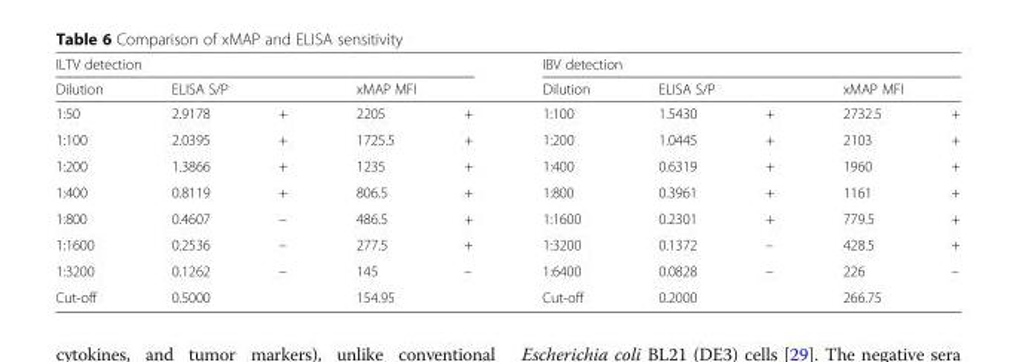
<table><thead><tr><td colspan="5">ILTV detection</td><td colspan="5">IBV detection</td></tr><tr><td rowspan="2">Dilution 1:50</td><td colspan="2">ELISA S/P</td><td colspan="2">xMAP MFI</td><td rowspan="2">Dilution 1:100</td><td colspan="2">ELISA S/P</td><td colspan="2">xMAP MFI</td></tr><tr><td>2.9178</td><td>+</td><td>2205</td><td>+</td><td>1.5430</td><td>+</td><td>2732.5</td><td>+</td></tr></thead><tbody><tr><td>1:100</td><td>2.0395</td><td>+</td><td>1725.5</td><td>+</td><td>1:200</td><td>1.0445</td><td>+</td><td>2103</td><td>+</td></tr><tr><td>1:200</td><td>1.3866</td><td>+</td><td>1235</td><td>+</td><td>1:400</td><td>0.6319</td><td>+</td><td>1960</td><td>+</td></tr><tr><td>1:400</td><td>0.8119</td><td>+</td><td>806.5</td><td>+</td><td>1:800</td><td>0.3961</td><td>+</td><td>1161</td><td>+</td></tr><tr><td>1:800</td><td>0.4607</td><td>–</td><td>486.5</td><td>+</td><td>1:1600</td><td>0.2301</td><td>+</td><td>779.5</td><td>+</td></tr><tr><td>1:1600</td><td>0.2536</td><td>–</td><td>277.5</td><td>+</td><td>1:3200</td><td>0.1372</td><td>–</td><td>428.5</td><td>+</td></tr><tr><td>1:3200</td><td>0.1262</td><td>–</td><td>145</td><td>–</td><td>1:6400</td><td>0.0828</td><td>–</td><td>226</td><td>–</td></tr><tr><td>Cut-off</td><td>0.5000</td><td></td><td>154.95</td><td></td><td>Cut-off</td><td>0.2000</td><td></td><td>266.75</td><td></td></tr></tbody></table>